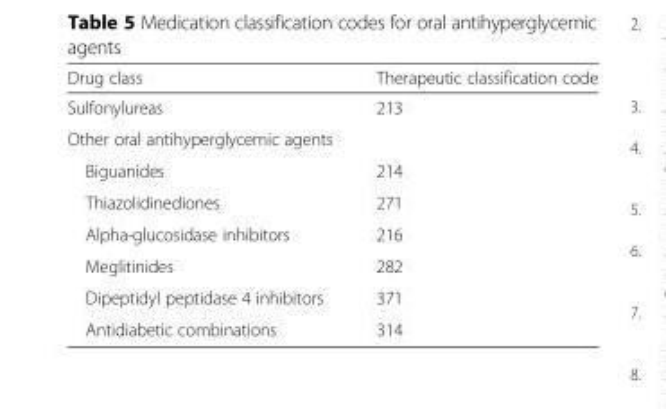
<table><thead><tr><td>Drug class</td><td>Therapeutic classification code</td></tr></thead><tbody><tr><td>Sulfonylureas</td><td>213</td></tr><tr><td colspan="2">Other oral antihyperglycemic agents</td></tr><tr><td>Biguanides</td><td>214</td></tr><tr><td>Thiazolidinediones</td><td>271</td></tr><tr><td>Alpha-glucosidase inhibitors</td><td>216</td></tr><tr><td>Meglitinides</td><td>282</td></tr><tr><td>Dipeptidyl peptidase 4 inhibitors</td><td>371</td></tr><tr><td>Antidiabetic combinations</td><td>314</td></tr></tbody></table>